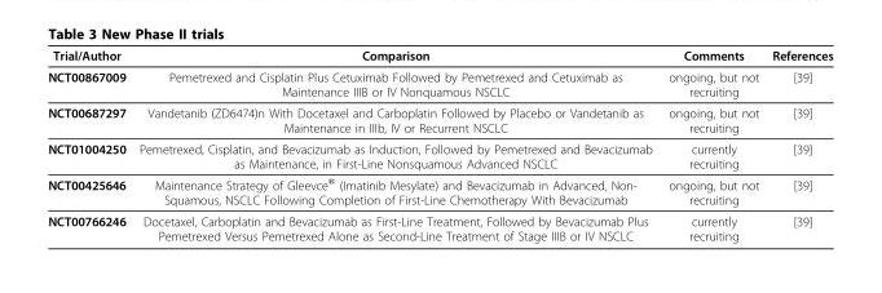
<table><thead><tr><td>Trial/Author</td><td>Comparison</td><td>Comments</td><td>References</td></tr></thead><tbody><tr><td>NCT00867009</td><td>Pemetrexed and Cisplatin Plus Cetuximab Followed by Pemetrexed and Cetuximab as Maintenance IIIB or IV Nonquamous NSCLC</td><td>ongoing, but not recruiting</td><td>[39]</td></tr><tr><td>NCT00687297</td><td>Vandetanib (ZD6474)n With Docetaxel and Carboplatin Followed by Placebo or Vandetanib as Maintenance in IIIb, IV or Recurrent NSCLC</td><td>ongoing, but not recruiting</td><td>[39]</td></tr><tr><td>NCT01004250</td><td>Pemetrexed, Cisplatin, and Bevacizumab as Induction, Followed by Pemetrexed and Bevacizumab as Maintenance, in First-Line Nonsquamous Advanced NSCLC</td><td>currently recruiting</td><td>[39]</td></tr><tr><td>NCT00425646</td><td>Maintenance Strategy of Gleevce<sup>®</sup> (Imatinib Mesylate) and Bevacizumab in Advanced, Non- Squamous, NSCLC Following Completion of First-Line Chemotherapy With Bevacizumab</td><td>ongoing, but not recruiting</td><td>[39]</td></tr><tr><td>NCT00766246</td><td>Docetaxel, Carboplatin and Bevacizumab as First-Line Treatment, Followed by Bevacizumab Plus Pemetrexed Versus Pemetrexed Alone as Second-Line Treatment of Stage IIIB or IV NSCLC</td><td>currently recruiting</td><td>[39]</td></tr></tbody></table>